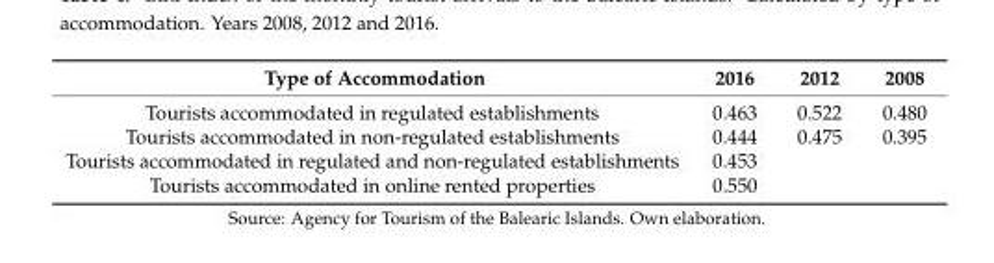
<table><thead><tr><td>Type of Accommodation</td><td>2016</td><td>2012</td><td>2008</td></tr></thead><tbody><tr><td>Tourists accommodated in regulated establishments</td><td>0.463</td><td>0.522</td><td>0.480</td></tr><tr><td>Tourists accommodated in non-regulated establishments</td><td>0.444</td><td>0.475</td><td>0.395</td></tr><tr><td>Tourists accommodated in regulated and non-regulated establishments</td><td>0.453</td><td></td><td></td></tr><tr><td>Tourists accommodated in online rented properties</td><td>0.550</td><td></td><td></td></tr></tbody></table>